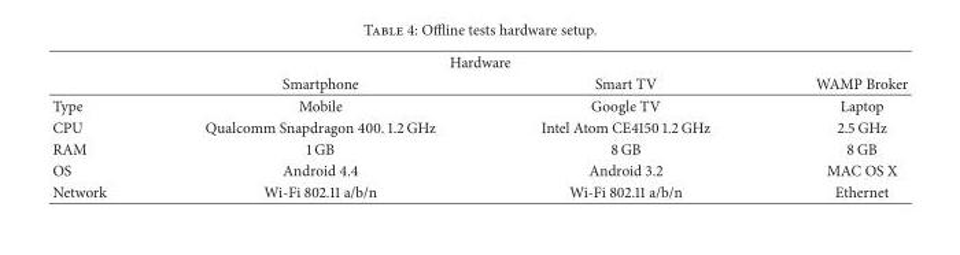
<table><thead><tr><td colspan="4">Hardware</td></tr><tr><td></td><td>Smartphone</td><td>Smart TV</td><td>WAMP Broker</td></tr></thead><tbody><tr><td>Type</td><td>Mobile</td><td>Google TV</td><td>Laptop</td></tr><tr><td>CPU</td><td>Qualcomm Snapdragon 400. 1.2 GHz</td><td>Intel Atom CE4150 1.2 GHz</td><td>2.5 GHz</td></tr><tr><td>RAM</td><td>1 GB</td><td>8 GB</td><td>8 GB</td></tr><tr><td>OS</td><td>Android 4.4</td><td>Android 3.2</td><td>MAC OS X</td></tr><tr><td>Network</td><td>Wi-Fi 802.11 a/b/n</td><td>Wi-Fi 802.11 a/b/n</td><td>Ethernet</td></tr></tbody></table>